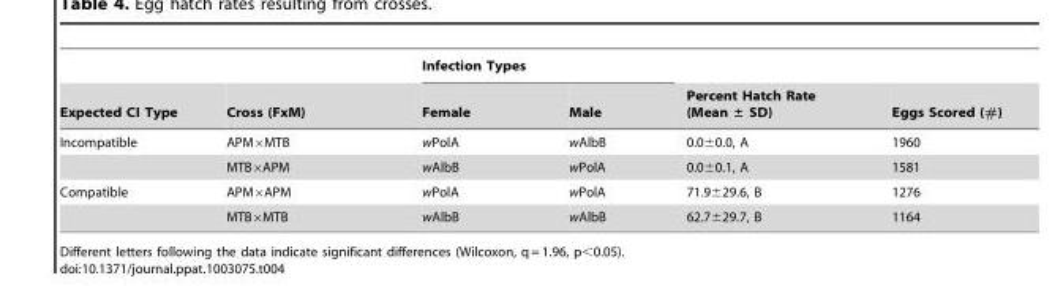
<table><thead><tr><td rowspan="2">Expected CI Type</td><td rowspan="2">Cross (FxM)</td><td colspan="2">Infection Types</td><td rowspan="2">Percent Hatch Rate (Mean ± SD)</td><td rowspan="2">Eggs Scored (#)</td></tr><tr><td>Female</td><td>Male</td></tr></thead><tbody><tr><td rowspan="2">Incompatible</td><td>APM×MTB</td><td>wPolA</td><td>wAlbB</td><td>0.0±0.0, A</td><td>1960</td></tr><tr><td>MTB×APM</td><td>wAlbB</td><td>wPolA</td><td>0.0±0.1, A</td><td>1581</td></tr><tr><td rowspan="2">Compatible</td><td>APM×APM</td><td>wPolA</td><td>wPolA</td><td>71.9±29.6, B</td><td>1276</td></tr><tr><td>MTB×MTB</td><td>wAlbB</td><td>wAlbB</td><td>62.7±29.7, B</td><td>1164</td></tr></tbody></table>